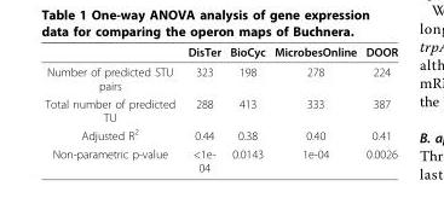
<table><thead><tr><td></td><td>DisTer</td><td>BioCyc</td><td>MicrobesOnline</td><td>DOOR</td></tr></thead><tbody><tr><td>Number of predicted STU pairs</td><td>323</td><td>198</td><td>278</td><td>224</td></tr><tr><td>Total number of predicted TU</td><td>288</td><td>413</td><td>333</td><td>387</td></tr><tr><td>Adjusted R<sup>2</sup></td><td>0.44</td><td>0.38</td><td>0.40</td><td>0.41</td></tr><tr><td>Non-parametric p-value</td><td>&lt;1e- 04</td><td>0.0143</td><td>1e-04</td><td>0.0026</td></tr></tbody></table>